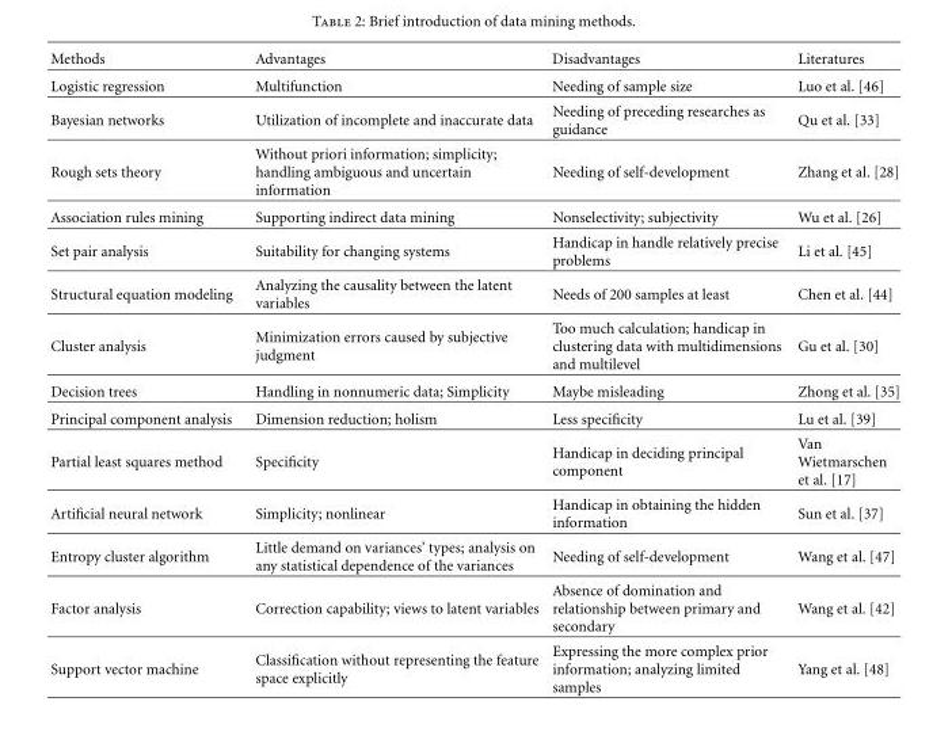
<table><thead><tr><td>Methods</td><td>Advantages</td><td>Disadvantages</td><td>Literatures</td></tr></thead><tbody><tr><td>Logistic regression</td><td>Multifunction</td><td>Needing of sample size</td><td>Luo et al. [46]</td></tr><tr><td>Bayesian networks</td><td>Utilization of incomplete and inaccurate data</td><td>Needing of preceding researches as guidance</td><td>Qu et al. [33]</td></tr><tr><td>Rough sets theory</td><td>Without priori information; simplicity; handling ambiguous and uncertain information</td><td>Needing of self-development</td><td>Zhang et al. [28]</td></tr><tr><td>Association rules mining</td><td>Supporting indirect data mining</td><td>Nonselectivity; subjectivity</td><td>Wu et al. [26]</td></tr><tr><td>Set pair analysis</td><td>Suitability for changing systems</td><td>Handicap in handle relatively precise problems</td><td>Li et al. [45]</td></tr><tr><td>Structural equation modeling</td><td>Analyzing the causality between the latent variables</td><td>Needs of 200 samples at least</td><td>Chen et al. [44]</td></tr><tr><td>Cluster analysis</td><td>Minimization errors caused by subjective judgment</td><td>Too much calculation; handicap in clustering data with multidimensions and multilevel</td><td>Gu et al. [30]</td></tr><tr><td>Decision trees</td><td>Handling in nonnumeric data; Simplicity</td><td>Maybe misleading</td><td>Zhong et al. [35]</td></tr><tr><td>Principal component analysis</td><td>Dimension reduction; holism</td><td>Less specificity</td><td>Lu et al. [39]</td></tr><tr><td>Partial least squares method</td><td>Specificity</td><td>Handicap in deciding principal component</td><td>Van Wietmarschen et al. [17]</td></tr><tr><td>Artificial neural network</td><td>Simplicity; nonlinear</td><td>Handicap in obtaining the hidden information</td><td>Sun et al. [37]</td></tr><tr><td>Entropy cluster algorithm</td><td>Little demand on variances’ types; analysis on any statistical dependence of the variances</td><td>Needing of self-development</td><td>Wang et al. [47]</td></tr><tr><td>Factor analysis</td><td>Correction capability; views to latent variables</td><td>Absence of domination and relationship between primary and secondary</td><td>Wang et al. [42]</td></tr><tr><td>Support vector machine</td><td>Classification without representing the feature space explicitly</td><td>Expressing the more complex prior information; analyzing limited samples</td><td>Yang et al. [48]</td></tr></tbody></table>